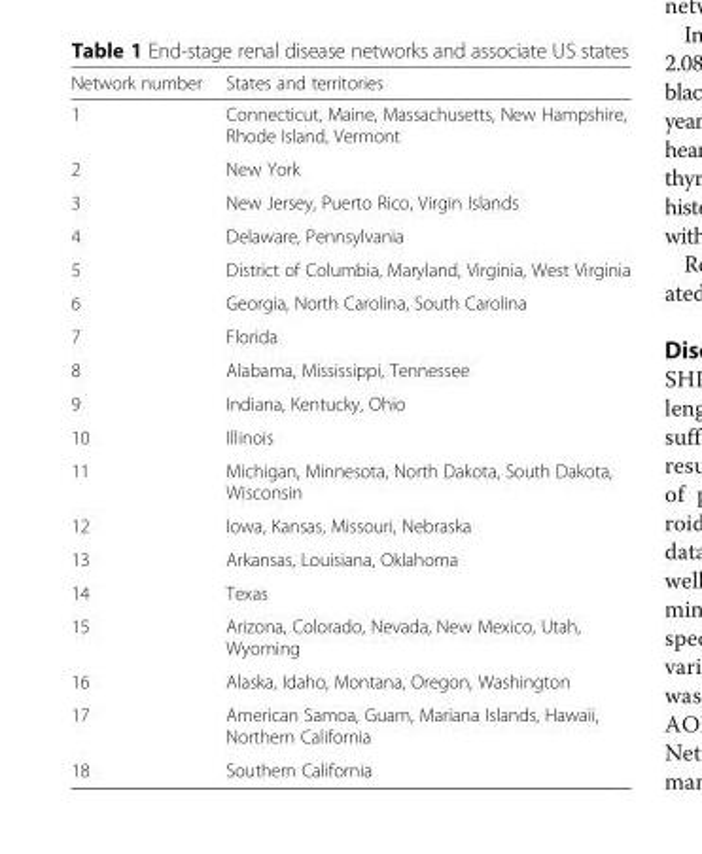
<table><thead><tr><td>Network number</td><td>States and territories</td></tr></thead><tbody><tr><td>1</td><td>Connecticut, Maine, Massachusetts, New Hampshire, Rhode Island, Vermont</td></tr><tr><td>2</td><td>New York</td></tr><tr><td>3</td><td>New Jersey, Puerto Rico, Virgin Islands</td></tr><tr><td>4</td><td>Delaware, Pennsylvania</td></tr><tr><td>5</td><td>District of Columbia, Maryland, Virginia, West Virginia</td></tr><tr><td>6</td><td>Georgia, North Carolina, South Carolina</td></tr><tr><td>7</td><td>Florida</td></tr><tr><td>8</td><td>Alabama, Mississippi, Tennessee</td></tr><tr><td>9</td><td>Indiana, Kentucky, Ohio</td></tr><tr><td>10</td><td>Illinois</td></tr><tr><td>11</td><td>Michigan, Minnesota, North Dakota, South Dakota, Wisconsin</td></tr><tr><td>12</td><td>Iowa, Kansas, Missouri, Nebraska</td></tr><tr><td>13</td><td>Arkansas, Louisiana, Oklahoma</td></tr><tr><td>14</td><td>Texas</td></tr><tr><td>15</td><td>Arizona, Colorado, Nevada, New Mexico, Utah, Wyoming</td></tr><tr><td>16</td><td>Alaska, Idaho, Montana, Oregon, Washington</td></tr><tr><td>17</td><td>American Samoa, Guam, Mariana Islands, Hawaii, Northern California</td></tr><tr><td>18</td><td>Southern California</td></tr></tbody></table>